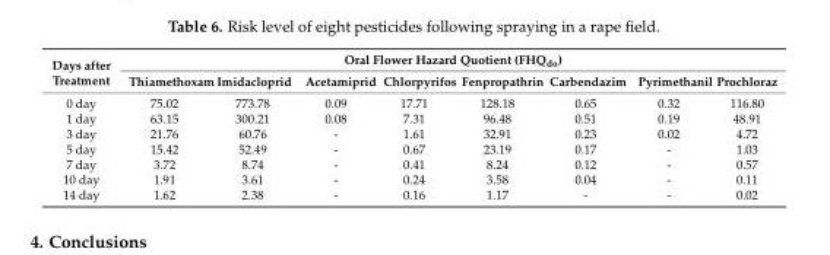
<table><thead><tr><td rowspan="2">Days after Treatment</td><td colspan="8">Oral Flower Hazard Quotient (FHQ<sub>do</sub>)</td></tr><tr><td>Thiamethoxam</td><td>Imidacloprid</td><td>Acetamiprid</td><td>Chlorpyrifos</td><td>Fenpropathrin</td><td>Carbendazim</td><td>Pyrimethanil</td><td>Prochloraz</td></tr></thead><tbody><tr><td>0 day</td><td>75.02</td><td>773.78</td><td>0.09</td><td>17.71</td><td>128.18</td><td>0.65</td><td>0.32</td><td>116.80</td></tr><tr><td>1 day</td><td>63.15</td><td>300.21</td><td>0.08</td><td>7.31</td><td>96.48</td><td>0.51</td><td>0.19</td><td>48.91</td></tr><tr><td>3 day</td><td>21.76</td><td>60.76</td><td>-</td><td>1.61</td><td>32.91</td><td>0.23</td><td>0.02</td><td>4.72</td></tr><tr><td>5 day</td><td>15.42</td><td>52.49</td><td>-</td><td>0.67</td><td>23.19</td><td>0.17</td><td>-</td><td>1.03</td></tr><tr><td>7 day</td><td>3.72</td><td>8.74</td><td>-</td><td>0.41</td><td>8.24</td><td>0.12</td><td>-</td><td>0.57</td></tr><tr><td>10 day</td><td>1.91</td><td>3.61</td><td>-</td><td>0.24</td><td>3.58</td><td>0.04</td><td>-</td><td>0.11</td></tr><tr><td>14 day</td><td>1.62</td><td>2.38</td><td>-</td><td>0.16</td><td>1.17</td><td>-</td><td>-</td><td>0.02</td></tr></tbody></table>